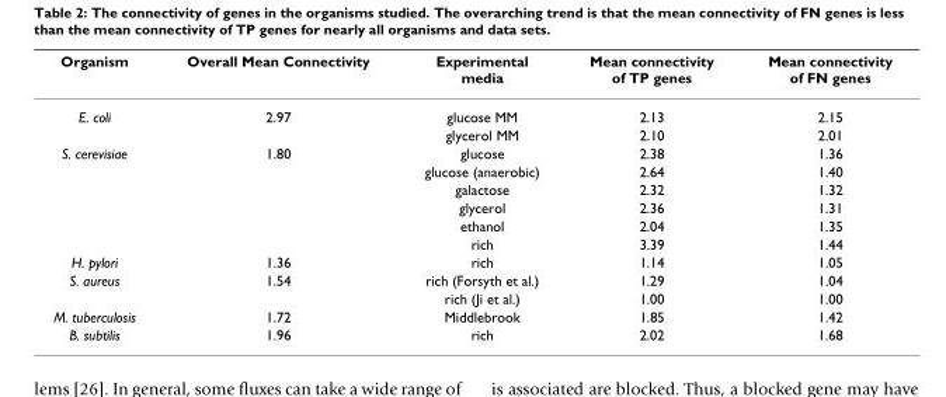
<table><thead><tr><td>Organism</td><td>Overall Mean Connectivity</td><td>Experimental media</td><td>Mean connectivity of TP genes</td><td>Mean connectivity of FN genes</td></tr></thead><tbody><tr><td rowspan="2">E. coli</td><td>2.97</td><td>glucose MM</td><td>2.13</td><td>2.15</td></tr><tr><td></td><td>glycerol MM</td><td>2.10</td><td>2.01</td></tr><tr><td rowspan="6">S. cerevisiae</td><td>1.80</td><td>glucose</td><td>2.38</td><td>1.36</td></tr><tr><td></td><td>glucose (anaerobic)</td><td>2.64</td><td>1.40</td></tr><tr><td></td><td>galactose</td><td>2.32</td><td>1.32</td></tr><tr><td></td><td>glycerol</td><td>2.36</td><td>1.31</td></tr><tr><td></td><td>ethanol</td><td>2.04</td><td>1.35</td></tr><tr><td></td><td>rich</td><td>3.39</td><td>1.44</td></tr><tr><td>H. pylori</td><td>1.36</td><td>rich</td><td>1.14</td><td>1.05</td></tr><tr><td rowspan="2">S. aureus</td><td>1.54</td><td>rich (Forsyth et al.)</td><td>1.29</td><td>1.04</td></tr><tr><td></td><td>rich (Ji et al.)</td><td>1.00</td><td>1.00</td></tr><tr><td>M. tuberculosis</td><td>1.72</td><td>Middlebrook</td><td>1.85</td><td>1.42</td></tr><tr><td>B. subtilis</td><td>1.96</td><td>rich</td><td>2.02</td><td>1.68</td></tr></tbody></table>